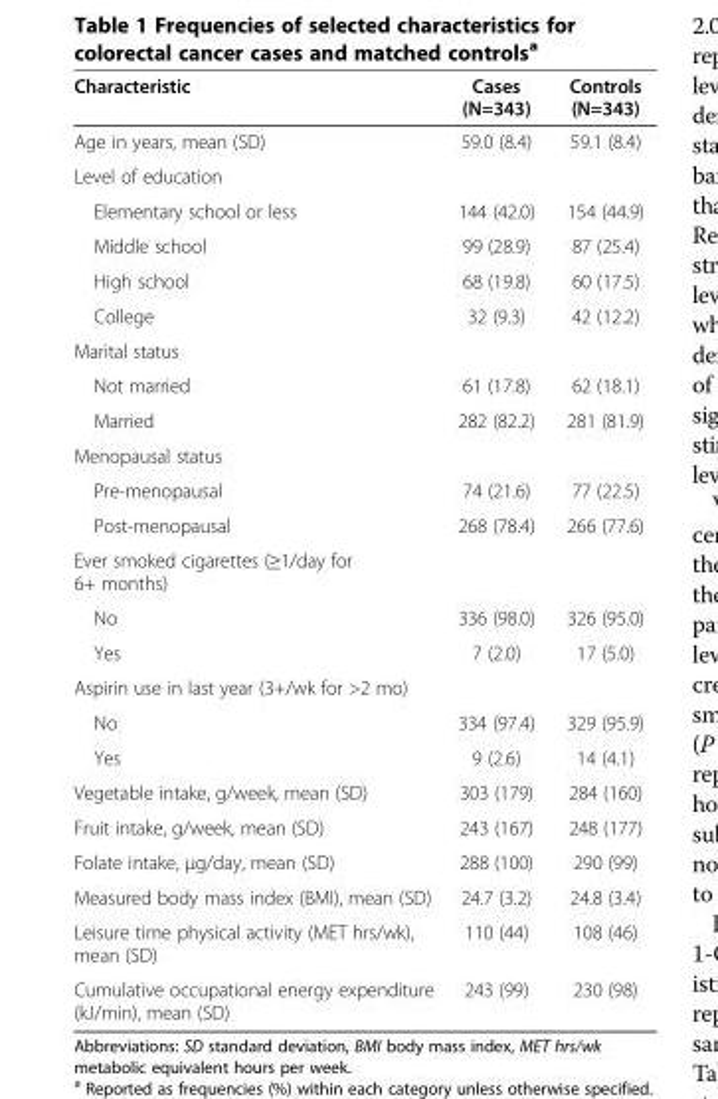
<table><thead><tr><td>Characteristic</td><td>Cases (N=343)</td><td>Controls (N=343)</td></tr></thead><tbody><tr><td>Age in years, mean (SD)</td><td>59.0 (8.4)</td><td>59.1 (8.4)</td></tr><tr><td colspan="3">Level of education</td></tr><tr><td>Elementary school or less</td><td>144 (42.0)</td><td>154 (44.9)</td></tr><tr><td>Middle school</td><td>99 (28.9)</td><td>87 (25.4)</td></tr><tr><td>High school</td><td>68 (19.8)</td><td>60 (17.5)</td></tr><tr><td>College</td><td>32 (9.3)</td><td>42 (12.2)</td></tr><tr><td colspan="3">Marital status</td></tr><tr><td>Not married</td><td>61 (17.8)</td><td>62 (18.1)</td></tr><tr><td>Married</td><td>282 (82.2)</td><td>281 (81.9)</td></tr><tr><td colspan="3">Menopausal status</td></tr><tr><td>Pre-menopausal</td><td>74 (21.6)</td><td>77 (22.5)</td></tr><tr><td>Post-menopausal</td><td>268 (78.4)</td><td>266 (77.6)</td></tr><tr><td colspan="3">Ever smoked cigarettes (≥1/day for 6+ months)</td></tr><tr><td>No</td><td>336 (98.0)</td><td>326 (95.0)</td></tr><tr><td>Yes</td><td>7 (2.0)</td><td>17 (5.0)</td></tr><tr><td colspan="3">Aspirin use in last year (3+/wk for &gt;2 mo)</td></tr><tr><td>No</td><td>334 (97.4)</td><td>329 (95.9)</td></tr><tr><td>Yes</td><td>9 (2.6)</td><td>14 (4.1)</td></tr><tr><td>Vegetable intake, g/week, mean (SD)</td><td>303 (179)</td><td>284 (160)</td></tr><tr><td>Fruit intake, g/week, mean (SD)</td><td>243 (167)</td><td>248 (177)</td></tr><tr><td>Folate intake, μg/day, mean (SD)</td><td>288 (100)</td><td>290 (99)</td></tr><tr><td>Measured body mass index (BMI), mean (SD)</td><td>24.7 (3.2)</td><td>24.8 (3.4)</td></tr><tr><td>Leisure time physical activity (MET hrs/wk), mean (SD)</td><td>110 (44)</td><td>108 (46)</td></tr><tr><td>Cumulative occupational energy expenditure (kJ/min), mean (SD)</td><td>243 (99)</td><td>230 (98)</td></tr></tbody></table>